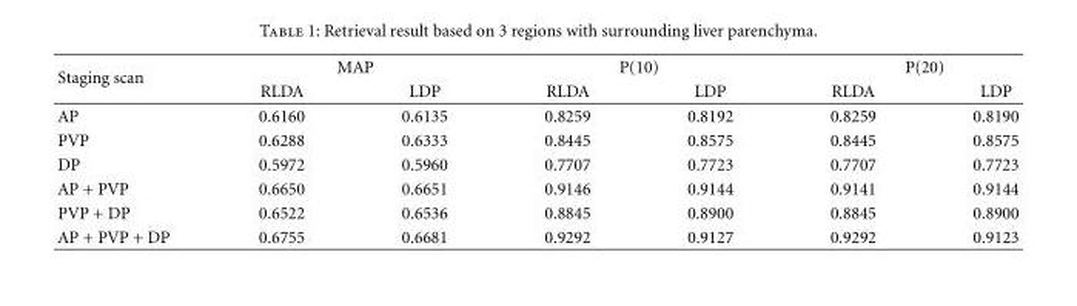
<table><thead><tr><td rowspan="2">Staging scan</td><td colspan="2">MAP</td><td colspan="2">P(10)</td><td colspan="2">P(20)</td></tr><tr><td>RLDA</td><td>LDP</td><td>RLDA</td><td>LDP</td><td>RLDA</td><td>LDP</td></tr></thead><tbody><tr><td>AP</td><td>0.6160</td><td>0.6135</td><td>0.8259</td><td>0.8192</td><td>0.8259</td><td>0.8190</td></tr><tr><td>PVP</td><td>0.6288</td><td>0.6333</td><td>0.8445</td><td>0.8575</td><td>0.8445</td><td>0.8575</td></tr><tr><td>DP</td><td>0.5972</td><td>0.5960</td><td>0.7707</td><td>0.7723</td><td>0.7707</td><td>0.7723</td></tr><tr><td>AP + PVP</td><td>0.6650</td><td>0.6651</td><td>0.9146</td><td>0.9144</td><td>0.9141</td><td>0.9144</td></tr><tr><td>PVP + DP</td><td>0.6522</td><td>0.6536</td><td>0.8845</td><td>0.8900</td><td>0.8845</td><td>0.8900</td></tr><tr><td>AP + PVP + DP</td><td>0.6755</td><td>0.6681</td><td>0.9292</td><td>0.9127</td><td>0.9292</td><td>0.9123</td></tr></tbody></table>